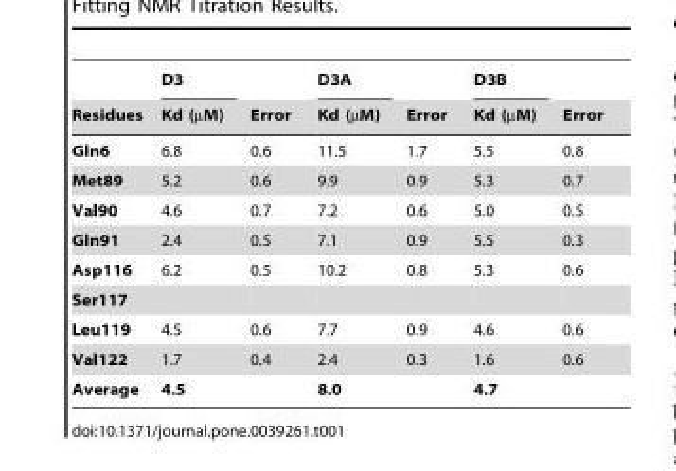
<table><thead><tr><td rowspan="2">Residues</td><td rowspan="2">D3 Kd (µM)</td><td rowspan="2">Error</td><td rowspan="2">D3A Kd (µM)</td><td rowspan="2">Error</td><td rowspan="2">D3B Kd (µM)</td><td rowspan="2">Error</td></tr><tr></tr></thead><tbody><tr><td>Gln6</td><td>6.8</td><td>0.6</td><td>11.5</td><td>1.7</td><td>5.5</td><td>0.8</td></tr><tr><td>Met89</td><td>5.2</td><td>0.6</td><td>9.9</td><td>0.9</td><td>5.3</td><td>0.7</td></tr><tr><td>Val90</td><td>4.6</td><td>0.7</td><td>7.2</td><td>0.6</td><td>5.0</td><td>0.5</td></tr><tr><td>Gln91</td><td>2.4</td><td>0.5</td><td>7.1</td><td>0.9</td><td>5.5</td><td>0.3</td></tr><tr><td>Asp116</td><td>6.2</td><td>0.5</td><td>10.2</td><td>0.8</td><td>5.3</td><td>0.6</td></tr><tr><td colspan="7">Ser117</td></tr><tr><td>Leu119</td><td>4.5</td><td>0.6</td><td>7.7</td><td>0.9</td><td>4.6</td><td>0.6</td></tr><tr><td>Val122</td><td>1.7</td><td>0.4</td><td>2.4</td><td>0.3</td><td>1.6</td><td>0.6</td></tr><tr><td>Average</td><td>4.5</td><td></td><td>8.0</td><td></td><td>4.7</td><td></td></tr></tbody></table>